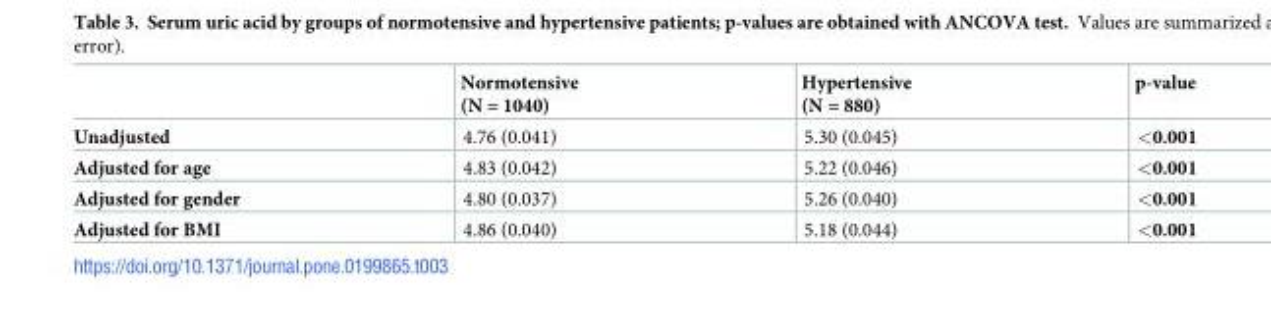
<table><thead><tr><td></td><td>Normotensive (N = 1040)</td><td>Hypertensive (N = 880)</td><td>p-value</td></tr></thead><tbody><tr><td>Unadjusted</td><td>4.76 (0.041)</td><td>5.30 (0.045)</td><td>&lt;0.001</td></tr><tr><td>Adjusted for age</td><td>4.83 (0.042)</td><td>5.22 (0.046)</td><td>&lt;0.001</td></tr><tr><td>Adjusted for gender</td><td>4.80 (0.037)</td><td>5.26 (0.040)</td><td>&lt;0.001</td></tr><tr><td>Adjusted for BMI</td><td>4.86 (0.040)</td><td>5.18 (0.044)</td><td>&lt;0.001</td></tr></tbody></table>